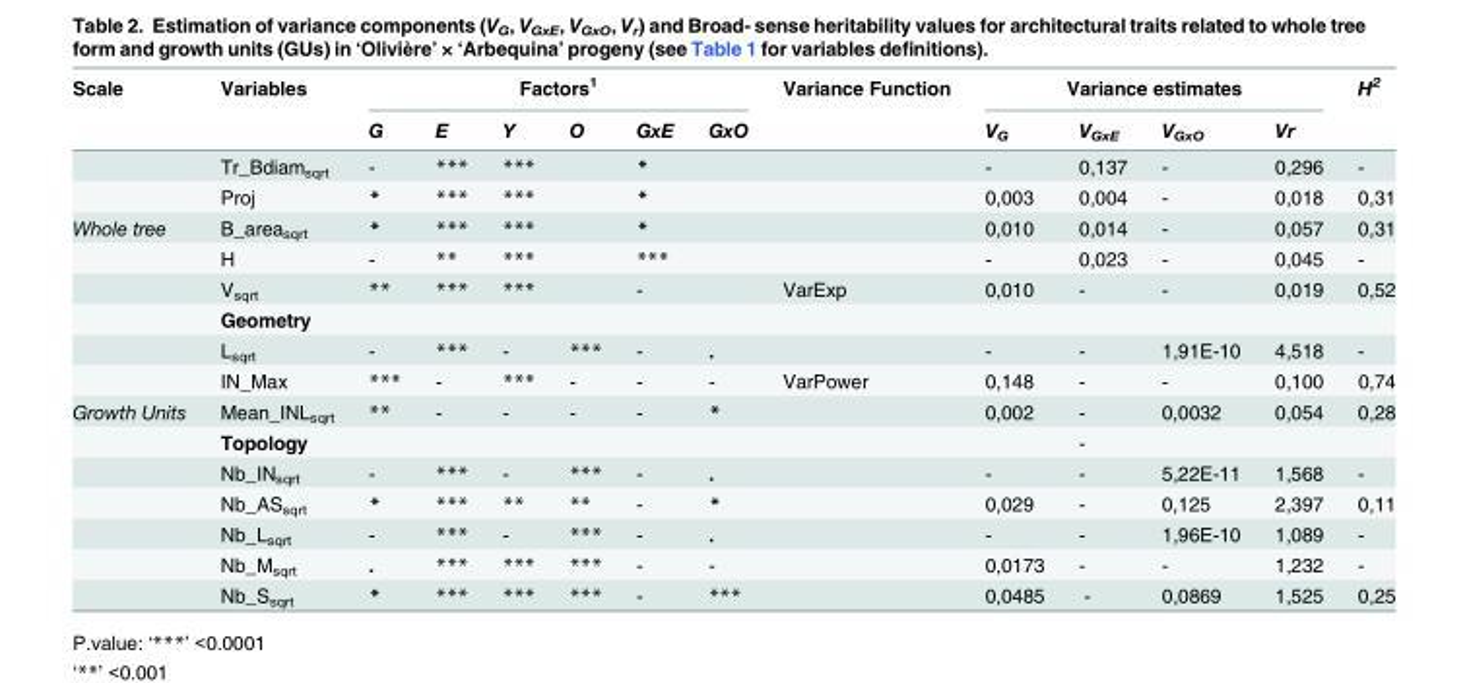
<table><thead><tr><td rowspan="2">Scale</td><td rowspan="2">Variables</td><td colspan="6">Factors<sup>1</sup></td><td rowspan="2">Variance Function</td><td colspan="4">Variance estimates</td><td rowspan="2">H<sup>2</sup></td></tr><tr><td>G</td><td>E</td><td>Y</td><td>O</td><td>GxE</td><td>GxO</td><td>V<sub>G</sub></td><td>V<sub>GxE</sub></td><td>V<sub>GxO</sub></td><td>Vr</td></tr></thead><tbody><tr><td></td><td>Tr_Bdiam<sub>sqrt</sub></td><td>-</td><td>***</td><td>***</td><td></td><td>*</td><td></td><td></td><td>-</td><td>0,137</td><td>-</td><td>0,296</td><td>-</td></tr><tr><td></td><td>Proj</td><td>*</td><td>***</td><td>***</td><td></td><td>*</td><td></td><td></td><td>0,003</td><td>0,004</td><td>-</td><td>0,018</td><td>0,31</td></tr><tr><td rowspan="6">Whole tree</td><td>B_area<sub>sqrt</sub></td><td>*</td><td>***</td><td>***</td><td></td><td>*</td><td></td><td></td><td>0,010</td><td>0,014</td><td>-</td><td>0,057</td><td>0,31</td></tr><tr><td>H</td><td>-</td><td>**</td><td>***</td><td></td><td>***</td><td></td><td></td><td>-</td><td>0,023</td><td>-</td><td>0,045</td><td>-</td></tr><tr><td>V<sub>sqrt</sub></td><td>**</td><td>***</td><td>***</td><td></td><td>-</td><td></td><td>VarExp</td><td>0,010</td><td>-</td><td>-</td><td>0,019</td><td>0,52</td></tr><tr><td>Geometry</td><td></td><td></td><td></td><td></td><td></td><td></td><td></td><td></td><td></td><td></td><td></td><td></td></tr><tr><td>L<sub>sqrt</sub></td><td>-</td><td>***</td><td>-</td><td>***</td><td>-</td><td>.</td><td></td><td>-</td><td>-</td><td>1,91E-10</td><td>4,518</td><td>-</td></tr><tr><td>IN_Max</td><td>***</td><td>-</td><td>***</td><td>-</td><td>-</td><td>-</td><td>VarPower</td><td>0,148</td><td>-</td><td>-</td><td>0,100</td><td>0,74</td></tr><tr><td rowspan="7">Growth Units</td><td>Mean_INL<sub>sqrt</sub></td><td>**</td><td>-</td><td>-</td><td>-</td><td>-</td><td>*</td><td></td><td>0,002</td><td>-</td><td>0,0032</td><td>0,054</td><td>0,28</td></tr><tr><td>Topology</td><td></td><td></td><td></td><td></td><td></td><td></td><td></td><td></td><td>-</td><td></td><td></td><td></td></tr><tr><td>Nb_IN<sub>sqrt</sub></td><td>-</td><td>***</td><td>-</td><td>***</td><td>-</td><td>.</td><td></td><td>-</td><td>-</td><td>5,22E-11</td><td>1,568</td><td>-</td></tr><tr><td>Nb_AS<sub>sqrt</sub></td><td>*</td><td>***</td><td>**</td><td>**</td><td>-</td><td>*</td><td></td><td>0,029</td><td>-</td><td>0,125</td><td>2,397</td><td>0,11</td></tr><tr><td>Nb_L<sub>sqrt</sub></td><td>-</td><td>***</td><td>-</td><td>***</td><td>-</td><td>.</td><td></td><td>-</td><td>-</td><td>1,96E-10</td><td>1,089</td><td>-</td></tr><tr><td>Nb_M<sub>sqrt</sub></td><td>.</td><td>***</td><td>***</td><td>***</td><td>-</td><td>-</td><td></td><td>0,0173</td><td>-</td><td>-</td><td>1,232</td><td>-</td></tr><tr><td>Nb_S<sub>sqrt</sub></td><td>*</td><td>***</td><td>***</td><td>***</td><td>-</td><td>***</td><td></td><td>0,0485</td><td>-</td><td>0,0869</td><td>1,525</td><td>0,25</td></tr></tbody></table>